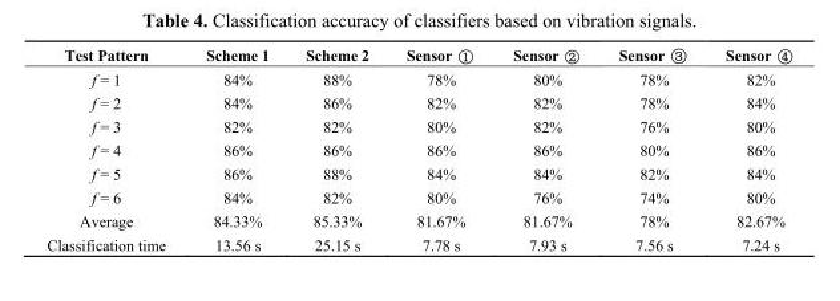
<table><thead><tr><td>Test Pattern</td><td>Scheme 1</td><td>Scheme 2</td><td>Sensor ①</td><td>Sensor ②</td><td>Sensor ③</td><td>Sensor ④</td></tr></thead><tbody><tr><td>f = 1</td><td>84%</td><td>88%</td><td>78%</td><td>80%</td><td>78%</td><td>82%</td></tr><tr><td>f = 2</td><td>84%</td><td>86%</td><td>82%</td><td>82%</td><td>78%</td><td>84%</td></tr><tr><td>f = 3</td><td>82%</td><td>82%</td><td>80%</td><td>82%</td><td>76%</td><td>80%</td></tr><tr><td>f = 4</td><td>86%</td><td>86%</td><td>86%</td><td>86%</td><td>80%</td><td>86%</td></tr><tr><td>f = 5</td><td>86%</td><td>88%</td><td>84%</td><td>84%</td><td>82%</td><td>84%</td></tr><tr><td>f = 6</td><td>84%</td><td>82%</td><td>80%</td><td>76%</td><td>74%</td><td>80%</td></tr><tr><td>Average</td><td>84.33%</td><td>85.33%</td><td>81.67%</td><td>81.67%</td><td>78%</td><td>82.67%</td></tr><tr><td>Classification time</td><td>13.56 s</td><td>25.15 s</td><td>7.78 s</td><td>7.93 s</td><td>7.56 s</td><td>7.24 s</td></tr></tbody></table>